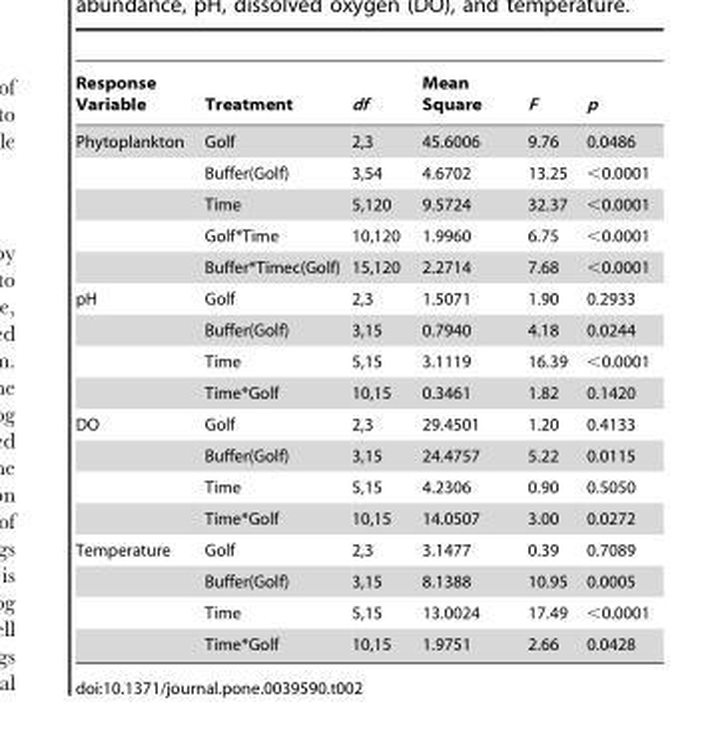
<table><thead><tr><td>Response Variable</td><td>Treatment</td><td>df</td><td>Mean Square</td><td>F</td><td>p</td></tr></thead><tbody><tr><td rowspan="5">Phytoplankton</td><td>Golf</td><td>2,3</td><td>45.6006</td><td>9.76</td><td>0.0486</td></tr><tr><td>Buffer(Golf)</td><td>3,54</td><td>4.6702</td><td>13.25</td><td>&lt;0.0001</td></tr><tr><td>Time</td><td>5,120</td><td>9.5724</td><td>32.37</td><td>&lt;0.0001</td></tr><tr><td>Golf*Time</td><td>10,120</td><td>1.9960</td><td>6.75</td><td>&lt;0.0001</td></tr><tr><td>Buffer*Timec(Golf)</td><td>15,120</td><td>2.2714</td><td>7.68</td><td>&lt;0.0001</td></tr><tr><td rowspan="4">pH</td><td>Golf</td><td>2,3</td><td>1.5071</td><td>1.90</td><td>0.2933</td></tr><tr><td>Buffer(Golf)</td><td>3,15</td><td>0.7940</td><td>4.18</td><td>0.0244</td></tr><tr><td>Time</td><td>5,15</td><td>3.1119</td><td>16.39</td><td>&lt;0.0001</td></tr><tr><td>Time*Golf</td><td>10,15</td><td>0.3461</td><td>1.82</td><td>0.1420</td></tr><tr><td rowspan="4">DO</td><td>Golf</td><td>2,3</td><td>29.4501</td><td>1.20</td><td>0.4133</td></tr><tr><td>Buffer(Golf)</td><td>3,15</td><td>24.4757</td><td>5.22</td><td>0.0115</td></tr><tr><td>Time</td><td>5,15</td><td>4.2306</td><td>0.90</td><td>0.5050</td></tr><tr><td>Time*Golf</td><td>10,15</td><td>14.0507</td><td>3.00</td><td>0.0272</td></tr><tr><td rowspan="4">Temperature</td><td>Golf</td><td>2,3</td><td>3.1477</td><td>0.39</td><td>0.7089</td></tr><tr><td>Buffer(Golf)</td><td>3,15</td><td>8.1388</td><td>10.95</td><td>0.0005</td></tr><tr><td>Time</td><td>5,15</td><td>13.0024</td><td>17.49</td><td>&lt;0.0001</td></tr><tr><td>Time*Golf</td><td>10,15</td><td>1.9751</td><td>2.66</td><td>0.0428</td></tr></tbody></table>